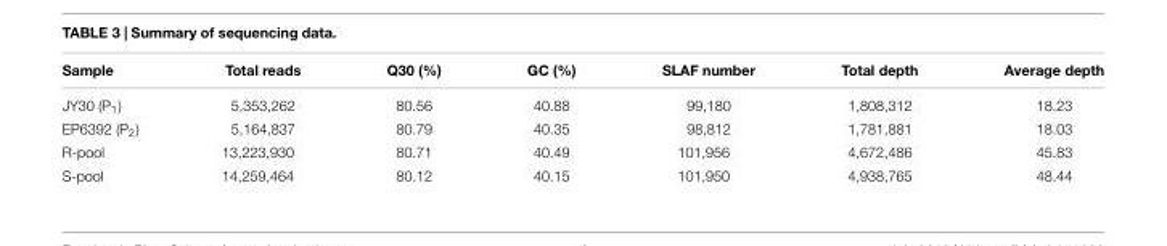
<table><thead><tr><td>Sample</td><td>Total reads</td><td>Q30 (%)</td><td>GC (%)</td><td>SLAF number</td><td>Total depth</td><td>Average depth</td></tr></thead><tbody><tr><td>JY30 (P<sub>1</sub>)</td><td>5,353,262</td><td>80.56</td><td>40.88</td><td>99,180</td><td>1,808,312</td><td>18.23</td></tr><tr><td>EP6392 (P<sub>2</sub>)</td><td>5,164,837</td><td>80.79</td><td>40.35</td><td>98,812</td><td>1,781,881</td><td>18.03</td></tr><tr><td>R-pool</td><td>13,223,930</td><td>80.71</td><td>40.49</td><td>101,956</td><td>4,672,486</td><td>45.83</td></tr><tr><td>S-pool</td><td>14,259,464</td><td>80.12</td><td>40.15</td><td>101,950</td><td>4,938,765</td><td>48.44</td></tr></tbody></table>